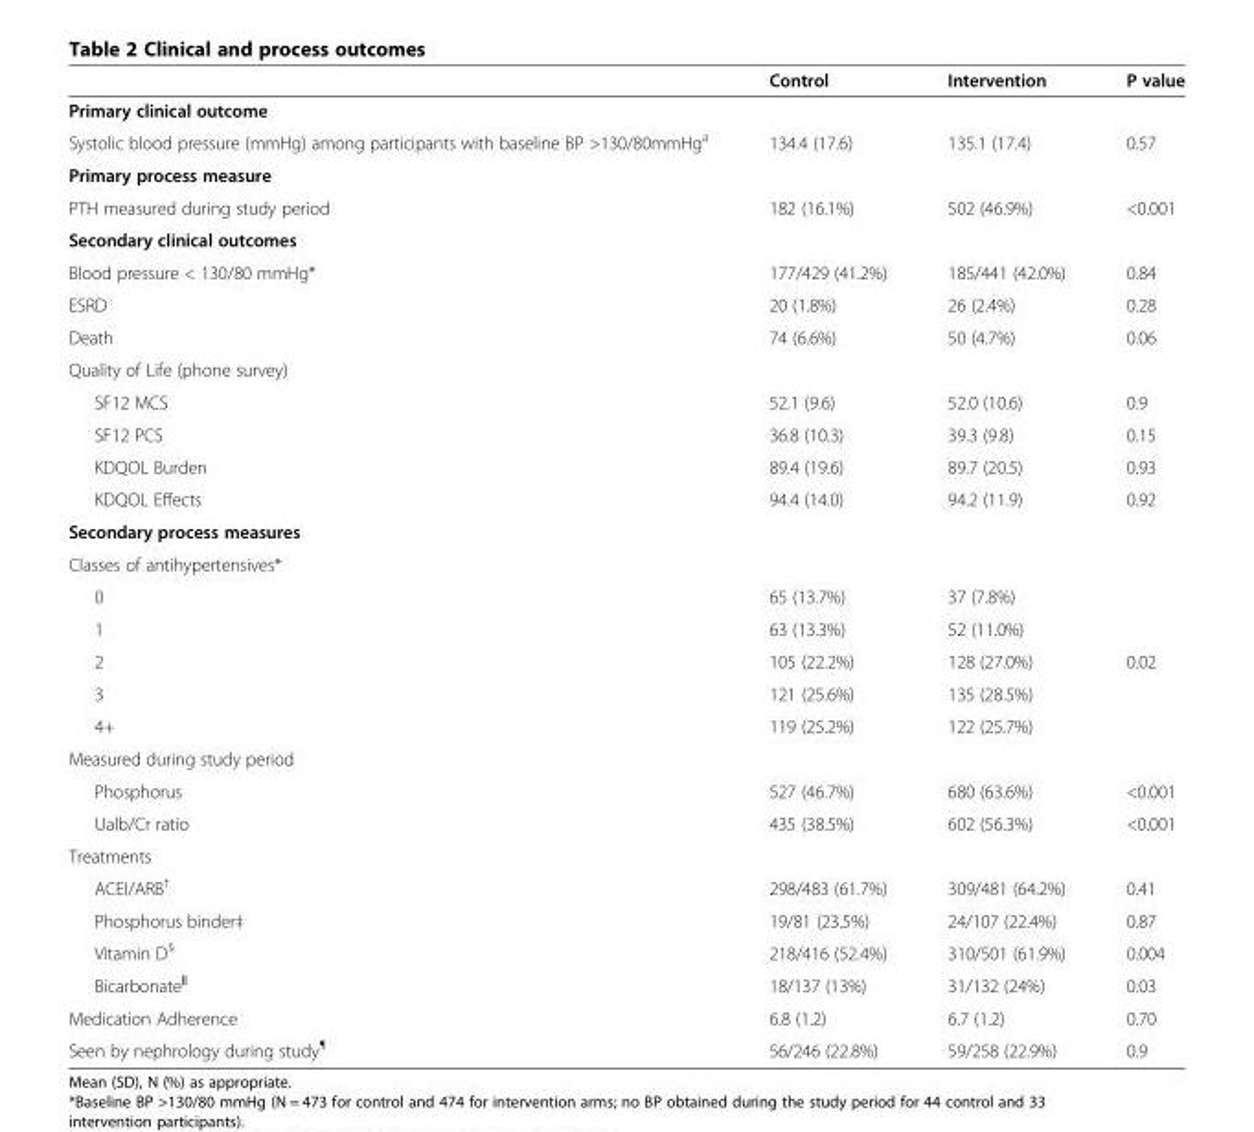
<table><thead><tr><td></td><td>Control</td><td>Intervention</td><td>P value</td></tr></thead><tbody><tr><td colspan="4">Primary clinical outcome</td></tr><tr><td>Systolic blood pressure (mmHg) among participants with baseline BP &gt;130/80mmHg<sup>a</sup></td><td>134.4 (17.6)</td><td>135.1 (17.4)</td><td>0.57</td></tr><tr><td colspan="4">Primary process measure</td></tr><tr><td>PTH measured during study period</td><td>182 (16.1%)</td><td>502 (46.9%)</td><td>&lt;0.001</td></tr><tr><td colspan="4">Secondary clinical outcomes</td></tr><tr><td>Blood pressure &lt; 130/80 mmHg*</td><td>177/429 (41.2%)</td><td>185/441 (42.0%)</td><td>0.84</td></tr><tr><td>ESRD</td><td>20 (1.8%)</td><td>26 (2.4%)</td><td>0.28</td></tr><tr><td>Death</td><td>74 (6.6%)</td><td>50 (4.7%)</td><td>0.06</td></tr><tr><td colspan="4">Quality of Life (phone survey)</td></tr><tr><td>SF12 MCS</td><td>52.1 (9.6)</td><td>52.0 (10.6)</td><td>0.9</td></tr><tr><td>SF12 PCS</td><td>36.8 (10.3)</td><td>39.3 (9.8)</td><td>0.15</td></tr><tr><td>KDQOL Burden</td><td>89.4 (19.6)</td><td>89.7 (20.5)</td><td>0.93</td></tr><tr><td>KDQOL Effects</td><td>94.4 (14.0)</td><td>94.2 (11.9)</td><td>0.92</td></tr><tr><td colspan="4">Secondary process measures</td></tr><tr><td colspan="4">Classes of antihypertensives*</td></tr><tr><td>0</td><td>65 (13.7%)</td><td>37 (7.8%)</td><td></td></tr><tr><td>1</td><td>63 (13.3%)</td><td>52 (11.0%)</td><td></td></tr><tr><td>2</td><td>105 (22.2%)</td><td>128 (27.0%)</td><td>0.02</td></tr><tr><td>3</td><td>121 (25.6%)</td><td>135 (28.5%)</td><td></td></tr><tr><td>4+</td><td>119 (25.2%)</td><td>122 (25.7%)</td><td></td></tr><tr><td colspan="4">Measured during study period</td></tr><tr><td>Phosphorus</td><td>527 (46.7%)</td><td>680 (63.6%)</td><td>&lt;0.001</td></tr><tr><td>Ualb/Cr ratio</td><td>435 (38.5%)</td><td>602 (56.3%)</td><td>&lt;0.001</td></tr><tr><td colspan="4">Treatments</td></tr><tr><td>ACEI/ARB<sup>†</sup></td><td>298/483 (61.7%)</td><td>309/481 (64.2%)</td><td>0.41</td></tr><tr><td>Phosphorus binder‡</td><td>19/81 (23.5%)</td><td>24/107 (22.4%)</td><td>0.87</td></tr><tr><td>Vitamin D<sup>§</sup></td><td>218/416 (52.4%)</td><td>310/501 (61.9%)</td><td>0.004</td></tr><tr><td>Bicarbonate<sup>‖</sup></td><td>18/137 (13%)</td><td>31/132 (24%)</td><td>0.03</td></tr><tr><td>Medication Adherence</td><td>6.8 (1.2)</td><td>6.7 (1.2)</td><td>0.70</td></tr><tr><td>Seen by nephrology during study<sup>¶</sup></td><td>56/246 (22.8%)</td><td>59/258 (22.9%)</td><td>0.9</td></tr></tbody></table>